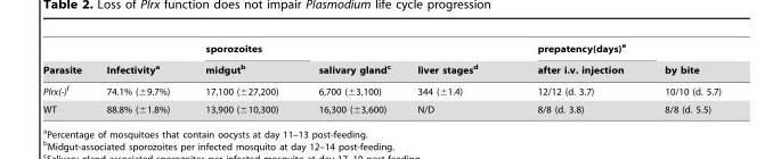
<table><thead><tr><td rowspan="2">Parasite</td><td rowspan="2">Infectivity<sup>a</sup></td><td rowspan="2">sporozoites midgut<sup>b</sup></td><td rowspan="2">salivary gland<sup>c</sup></td><td rowspan="2">liver stages<sup>d</sup></td><td rowspan="2">prepatency(days)<sup>e</sup> after i.v. injection</td><td rowspan="2">by bite</td></tr><tr></tr></thead><tbody><tr><td>Plrx(-)f</td><td>74.1% (±9.7%)</td><td>17,100 (±27,200)</td><td>6,700 (±3,100)</td><td>344 (±1.4)</td><td>12/12 (d. 3.7)</td><td>10/10 (d. 5.7)</td></tr><tr><td>WT</td><td>88.8% (±1.8%)</td><td>13,900 (±10,300)</td><td>16,300 (±3,600)</td><td>N/D</td><td>8/8 (d. 3.8)</td><td>8/8 (d. 5.5)</td></tr></tbody></table>